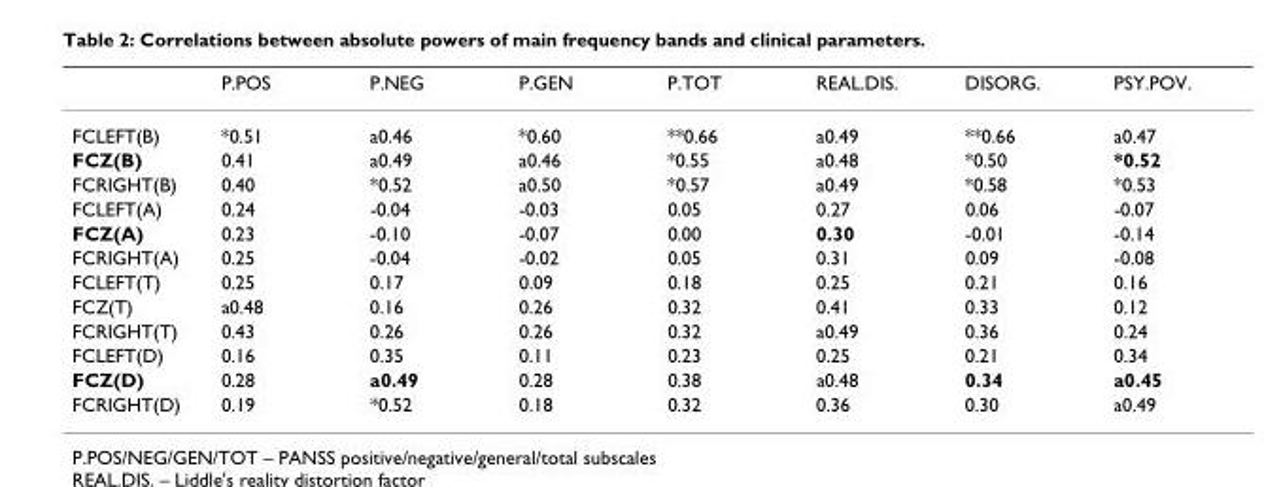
<table><thead><tr><td></td><td>P.POS</td><td>P.NEG</td><td>P.GEN</td><td>P.TOT</td><td>REAL.DIS.</td><td>DISORG.</td><td>PSY.POV.</td></tr></thead><tbody><tr><td>FCLEFT(B)</td><td>*0.51</td><td>a0.46</td><td>*0.60</td><td>**0.66</td><td>a0.49</td><td>**0.66</td><td>a0.47</td></tr><tr><td>FCZ(B)</td><td>0.41</td><td>a0.49</td><td>a0.46</td><td>*0.55</td><td>a0.48</td><td>*0.50</td><td>*0.52</td></tr><tr><td>FCRIGHT(B)</td><td>0.40</td><td>*0.52</td><td>a0.50</td><td>*0.57</td><td>a0.49</td><td>*0.58</td><td>*0.53</td></tr><tr><td>FCLEFT(A)</td><td>0.24</td><td>-0.04</td><td>-0.03</td><td>0.05</td><td>0.27</td><td>0.06</td><td>-0.07</td></tr><tr><td>FCZ(A)</td><td>0.23</td><td>-0.10</td><td>-0.07</td><td>0.00</td><td>0.30</td><td>-0.01</td><td>-0.14</td></tr><tr><td>FCRIGHT(A)</td><td>0.25</td><td>-0.04</td><td>-0.02</td><td>0.05</td><td>0.31</td><td>0.09</td><td>-0.08</td></tr><tr><td>FCLEFT(T)</td><td>0.25</td><td>0.17</td><td>0.09</td><td>0.18</td><td>0.25</td><td>0.21</td><td>0.16</td></tr><tr><td>FCZ(T)</td><td>a0.48</td><td>0.16</td><td>0.26</td><td>0.32</td><td>0.41</td><td>0.33</td><td>0.12</td></tr><tr><td>FCRIGHT(T)</td><td>0.43</td><td>0.26</td><td>0.26</td><td>0.32</td><td>a0.49</td><td>0.36</td><td>0.24</td></tr><tr><td>FCLEFT(D)</td><td>0.16</td><td>0.35</td><td>0.11</td><td>0.23</td><td>0.25</td><td>0.21</td><td>0.34</td></tr><tr><td>FCZ(D)</td><td>0.28</td><td>a0.49</td><td>0.28</td><td>0.38</td><td>a0.48</td><td>0.34</td><td>a0.45</td></tr><tr><td>FCRIGHT(D)</td><td>0.19</td><td>*0.52</td><td>0.18</td><td>0.32</td><td>0.36</td><td>0.30</td><td>a0.49</td></tr></tbody></table>